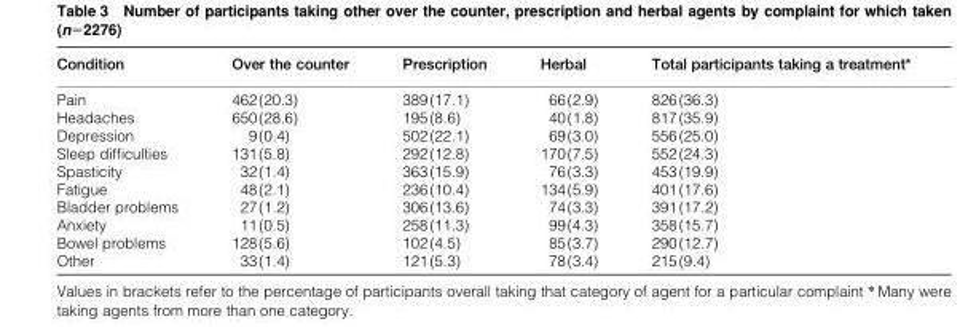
<table><thead><tr><td>Condition</td><td>Over the counter</td><td>Prescription</td><td>Herbal</td><td>Total participants taking a treatment*</td></tr></thead><tbody><tr><td>Pain</td><td>462(20.3)</td><td>389(17.1)</td><td>66(2.9)</td><td>826(36.3)</td></tr><tr><td>Headaches</td><td>650(28.6)</td><td>195(8.6)</td><td>40(1.8)</td><td>817(35.9)</td></tr><tr><td>Depression</td><td>9(0.4)</td><td>502(22.1)</td><td>69(3.0)</td><td>556(25.0)</td></tr><tr><td>Sleep difficulties</td><td>131(5.8)</td><td>292(12.8)</td><td>170(7.5)</td><td>552(24.3)</td></tr><tr><td>Spasticity</td><td>32(1.4)</td><td>363(15.9)</td><td>76(3.3)</td><td>453(19.9)</td></tr><tr><td>Fatigue</td><td>48(2.1)</td><td>236(10.4)</td><td>134(5.9)</td><td>401(17.6)</td></tr><tr><td>Bladder problems</td><td>27(1.2)</td><td>306(13.6)</td><td>74(3.3)</td><td>391(17.2)</td></tr><tr><td>Anxiety</td><td>11(0.5)</td><td>258(11.3)</td><td>99(4.3)</td><td>358(15.7)</td></tr><tr><td>Bowel problems</td><td>128(5.6)</td><td>102(4.5)</td><td>85(3.7)</td><td>290(12.7)</td></tr><tr><td>Other</td><td>33(1.4)</td><td>121(5.3)</td><td>78(3.4)</td><td>215(9.4)</td></tr></tbody></table>